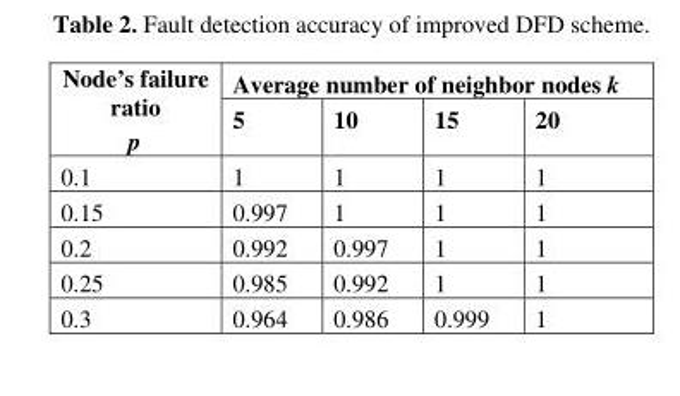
<table><thead><tr><td rowspan="2">Node’s failure ratio p</td><td colspan="4">Average number of neighbor nodes k</td></tr><tr><td>5</td><td>10</td><td>15</td><td>20</td></tr></thead><tbody><tr><td>0.1</td><td>1</td><td>1</td><td>1</td><td>1</td></tr><tr><td>0.15</td><td>0.997</td><td>1</td><td>1</td><td>1</td></tr><tr><td>0.2</td><td>0.992</td><td>0.997</td><td>1</td><td>1</td></tr><tr><td>0.25</td><td>0.985</td><td>0.992</td><td>1</td><td>1</td></tr><tr><td>0.3</td><td>0.964</td><td>0.986</td><td>0.999</td><td>1</td></tr></tbody></table>